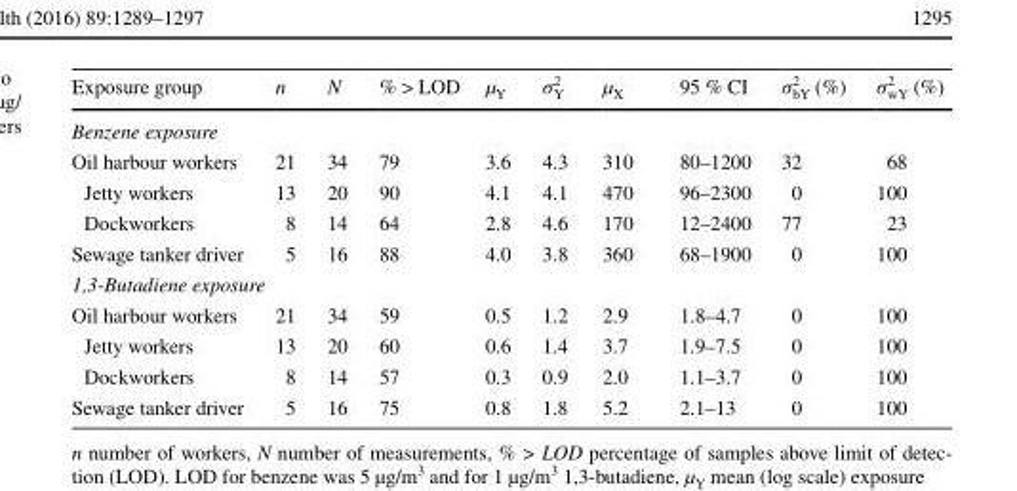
<table><thead><tr><td>Exposure group</td><td>n</td><td>N</td><td>% &gt; LOD</td><td>µ<sub>Y</sub></td><td>σ<sub>Y</sub> <sup>2</sup></td><td>µ<sub>X</sub></td><td>95 % CI</td><td>σ2 bY (%)</td><td>σ2 wY (%)</td></tr></thead><tbody><tr><td colspan="10">Benzene exposure</td></tr><tr><td>Oil harbour workers</td><td>21</td><td>34</td><td>79</td><td>3.6</td><td>4.3</td><td>310</td><td>80–1200</td><td>32</td><td>68</td></tr><tr><td>Jetty workers</td><td>13</td><td>20</td><td>90</td><td>4.1</td><td>4.1</td><td>470</td><td>96–2300</td><td>0</td><td>100</td></tr><tr><td>Dockworkers</td><td>8</td><td>14</td><td>64</td><td>2.8</td><td>4.6</td><td>170</td><td>12–2400</td><td>77</td><td>23</td></tr><tr><td>Sewage tanker driver</td><td>5</td><td>16</td><td>88</td><td>4.0</td><td>3.8</td><td>360</td><td>68–1900</td><td>0</td><td>100</td></tr><tr><td colspan="10">1,3-Butadiene exposure</td></tr><tr><td>Oil harbour workers</td><td>21</td><td>34</td><td>59</td><td>0.5</td><td>1.2</td><td>2.9</td><td>1.8–4.7</td><td>0</td><td>100</td></tr><tr><td>Jetty workers</td><td>13</td><td>20</td><td>60</td><td>0.6</td><td>1.4</td><td>3.7</td><td>1.9–7.5</td><td>0</td><td>100</td></tr><tr><td>Dockworkers</td><td>8</td><td>14</td><td>57</td><td>0.3</td><td>0.9</td><td>2.0</td><td>1.1–3.7</td><td>0</td><td>100</td></tr><tr><td>Sewage tanker driver</td><td>5</td><td>16</td><td>75</td><td>0.8</td><td>1.8</td><td>5.2</td><td>2.1–13</td><td>0</td><td>100</td></tr></tbody></table>